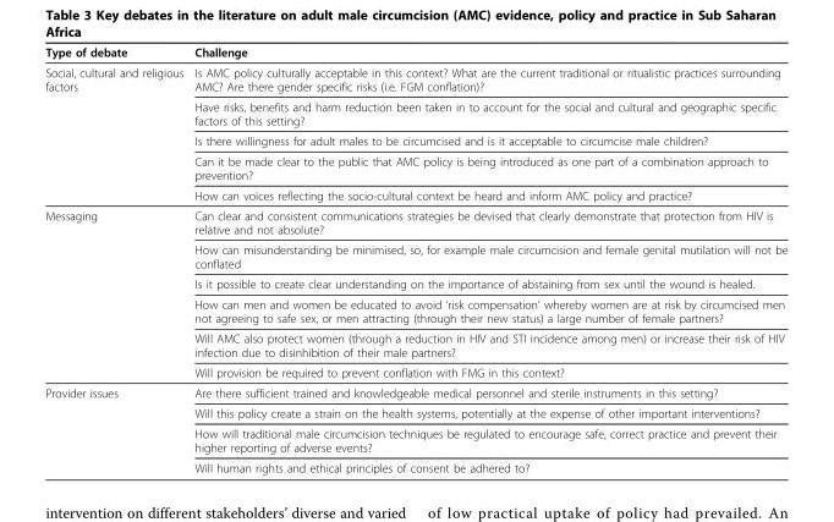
<table><thead><tr><td>Type of debate</td><td>Challenge</td></tr></thead><tbody><tr><td rowspan="5">Social, cultural and religious factors</td><td>Is AMC policy culturally acceptable in this context? What are the current traditional or ritualistic practices surrounding AMC? Are there gender specific risks (i.e. FGM conflation)?</td></tr><tr><td>Have risks, benefits and harm reduction been taken in to account for the social and cultural and geographic specific factors of this setting?</td></tr><tr><td>Is there willingness for adult males to be circumcised and is it acceptable to circumcise male children?</td></tr><tr><td>Can it be made clear to the public that AMC policy is being introduced as one part of a combination approach to prevention?</td></tr><tr><td>How can voices reflecting the socio-cultural context be heard and inform AMC policy and practice?</td></tr><tr><td rowspan="6">Messaging</td><td>Can clear and consistent communications strategies be devised that clearly demonstrate that protection from HIV is relative and not absolute?</td></tr><tr><td>How can misunderstanding be minimised, so, for example male circumcision and female genital mutilation will not be conflated</td></tr><tr><td>Is it possible to create clear understanding on the importance of abstaining from sex until the wound is healed.</td></tr><tr><td>How can men and women be educated to avoid ‘risk compensation’ whereby women are at risk by circumcised men not agreeing to safe sex, or men attracting (through their new status) a large number of female partners?</td></tr><tr><td>Will AMC also protect women (through a reduction in HIV and STI incidence among men) or increase their risk of HIV infection due to disinhibition of their male partners?</td></tr><tr><td>Will provision be required to prevent conflation with FMG in this context?</td></tr><tr><td rowspan="4">Provider issues</td><td>Are there sufficient trained and knowledgeable medical personnel and sterile instruments in this setting?</td></tr><tr><td>Will this policy create a strain on the health systems, potentially at the expense of other important interventions?</td></tr><tr><td>How will traditional male circumcision techniques be regulated to encourage safe, correct practice and prevent their higher reporting of adverse events?</td></tr><tr><td>Will human rights and ethical principles of consent be adhered to?</td></tr></tbody></table>